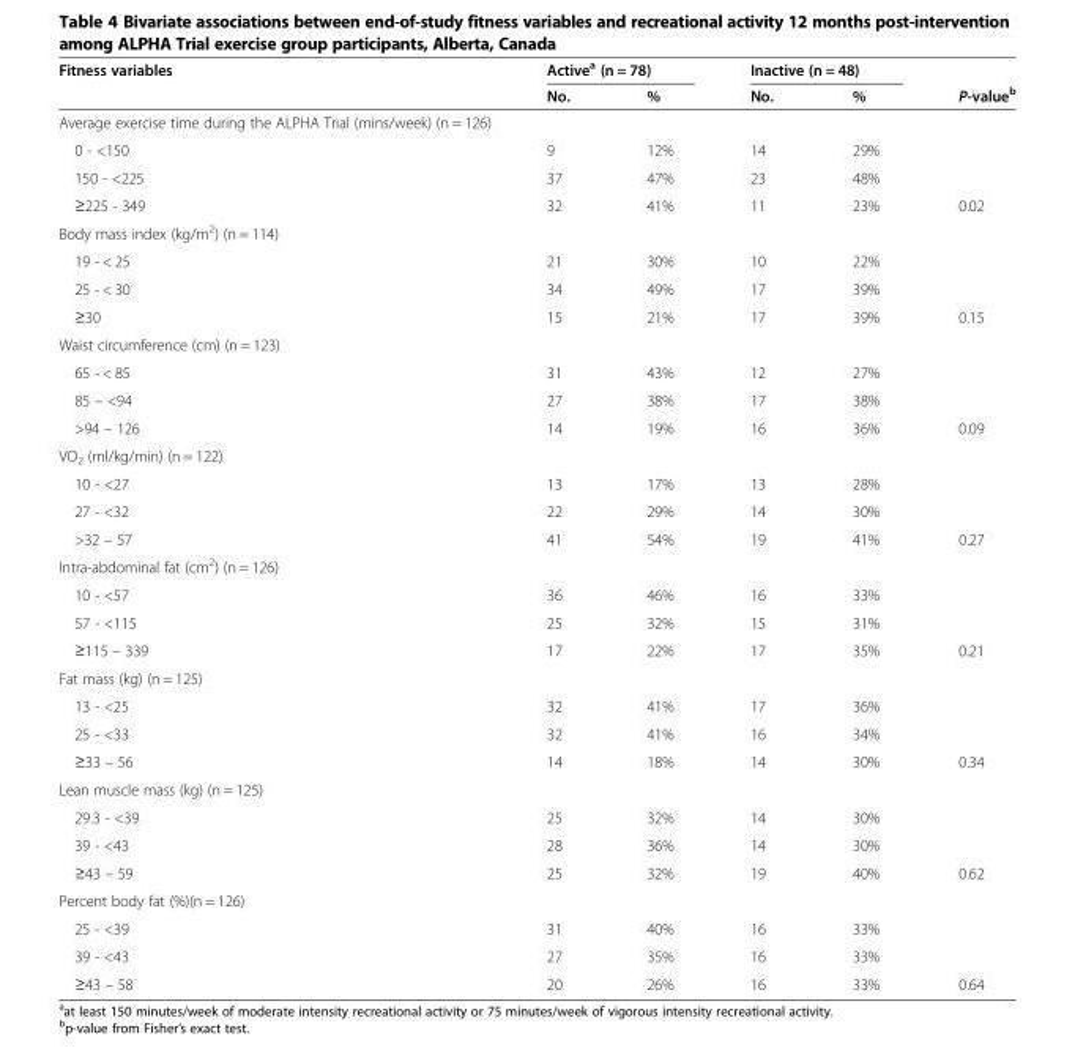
<table><thead><tr><td rowspan="2">Fitness variables</td><td colspan="2">Active<sup>a</sup> (n = 78)</td><td colspan="2">Inactive (n = 48)</td><td rowspan="2">P-value<sup>b</sup></td></tr><tr><td>No.</td><td>%</td><td>No.</td><td>%</td></tr></thead><tbody><tr><td colspan="6">Average exercise time during the ALPHA Trial (mins/week) (n = 126)</td></tr><tr><td>0 - &lt;150</td><td>9</td><td>12%</td><td>14</td><td>29%</td><td></td></tr><tr><td>150 - &lt;225</td><td>37</td><td>47%</td><td>23</td><td>48%</td><td></td></tr><tr><td>≥225 - 349</td><td>32</td><td>41%</td><td>11</td><td>23%</td><td>0.02</td></tr><tr><td colspan="6">Body mass index (kg/m<sup>2</sup>) (n = 114)</td></tr><tr><td>19 - &lt; 25</td><td>21</td><td>30%</td><td>10</td><td>22%</td><td></td></tr><tr><td>25 - &lt; 30</td><td>34</td><td>49%</td><td>17</td><td>39%</td><td></td></tr><tr><td>≥30</td><td>15</td><td>21%</td><td>17</td><td>39%</td><td>0.15</td></tr><tr><td colspan="6">Waist circumference (cm) (n = 123)</td></tr><tr><td>65 - &lt; 85</td><td>31</td><td>43%</td><td>12</td><td>27%</td><td></td></tr><tr><td>85 – &lt;94</td><td>27</td><td>38%</td><td>17</td><td>38%</td><td></td></tr><tr><td>&gt;94 – 126</td><td>14</td><td>19%</td><td>16</td><td>36%</td><td>0.09</td></tr><tr><td colspan="6">VO<sub>2</sub> (ml/kg/min) (n = 122)</td></tr><tr><td>10 - &lt;27</td><td>13</td><td>17%</td><td>13</td><td>28%</td><td></td></tr><tr><td>27 - &lt;32</td><td>22</td><td>29%</td><td>14</td><td>30%</td><td></td></tr><tr><td>&gt;32 – 57</td><td>41</td><td>54%</td><td>19</td><td>41%</td><td>0.27</td></tr><tr><td colspan="6">Intra-abdominal fat (cm<sup>2</sup>) (n = 126)</td></tr><tr><td>10 - &lt;57</td><td>36</td><td>46%</td><td>16</td><td>33%</td><td></td></tr><tr><td>57 - &lt;115</td><td>25</td><td>32%</td><td>15</td><td>31%</td><td></td></tr><tr><td>≥115 – 339</td><td>17</td><td>22%</td><td>17</td><td>35%</td><td>0.21</td></tr><tr><td colspan="6">Fat mass (kg) (n = 125)</td></tr><tr><td>13 - &lt;25</td><td>32</td><td>41%</td><td>17</td><td>36%</td><td></td></tr><tr><td>25 - &lt;33</td><td>32</td><td>41%</td><td>16</td><td>34%</td><td></td></tr><tr><td>≥33 – 56</td><td>14</td><td>18%</td><td>14</td><td>30%</td><td>0.34</td></tr><tr><td colspan="6">Lean muscle mass (kg) (n = 125)</td></tr><tr><td>29.3 - &lt;39</td><td>25</td><td>32%</td><td>14</td><td>30%</td><td></td></tr><tr><td>39 - &lt;43</td><td>28</td><td>36%</td><td>14</td><td>30%</td><td></td></tr><tr><td>≥43 – 59</td><td>25</td><td>32%</td><td>19</td><td>40%</td><td>0.62</td></tr><tr><td colspan="6">Percent body fat (%)(n = 126)</td></tr><tr><td>25 - &lt;39</td><td>31</td><td>40%</td><td>16</td><td>33%</td><td></td></tr><tr><td>39 - &lt;43</td><td>27</td><td>35%</td><td>16</td><td>33%</td><td></td></tr><tr><td>≥43 – 58</td><td>20</td><td>26%</td><td>16</td><td>33%</td><td>0.64</td></tr></tbody></table>